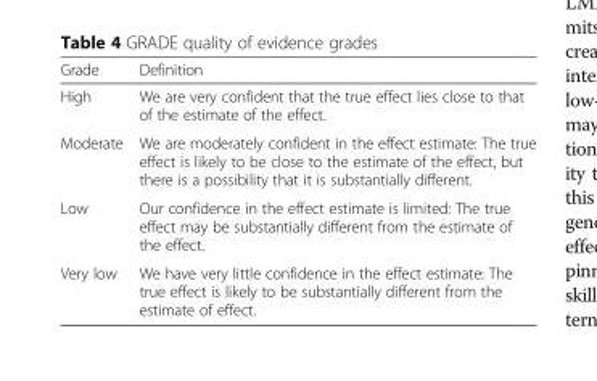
<table><thead><tr><td>Grade</td><td>Definition</td></tr></thead><tbody><tr><td>High</td><td>We are very confident that the true effect lies close to that of the estimate of the effect.</td></tr><tr><td>Moderate</td><td>We are moderately confident in the effect estimate: The true effect is likely to be close to the estimate of the effect, but there is a possibility that it is substantially different.</td></tr><tr><td>Low</td><td>Our confidence in the effect estimate is limited: The true effect may be substantially different from the estimate of the effect.</td></tr><tr><td>Very low</td><td>We have very little confidence in the effect estimate: The true effect is likely to be substantially different from the estimate of effect.</td></tr></tbody></table>